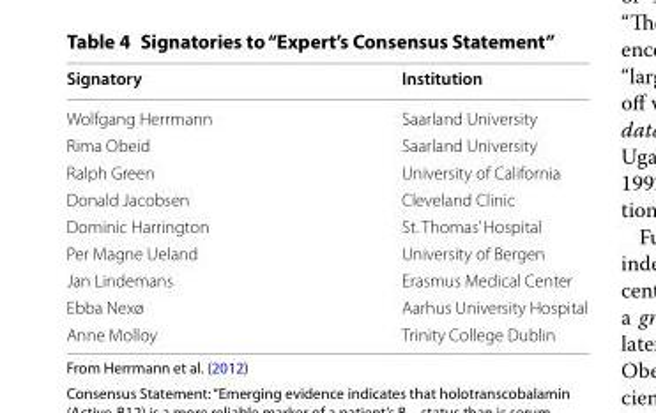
<table><thead><tr><td>Signatory</td><td>Institution</td></tr></thead><tbody><tr><td>Wolfgang Herrmann</td><td>Saarland University</td></tr><tr><td>Rima Obeid</td><td>Saarland University</td></tr><tr><td>Ralph Green</td><td>University of California</td></tr><tr><td>Donald Jacobsen</td><td>Cleveland Clinic</td></tr><tr><td>Dominic Harrington</td><td>St. Thomas’ Hospital</td></tr><tr><td>Per Magne Ueland</td><td>University of Bergen</td></tr><tr><td>Jan Lindemans</td><td>Erasmus Medical Center</td></tr><tr><td>Ebba Nexø</td><td>Aarhus University Hospital</td></tr><tr><td>Anne Molloy</td><td>Trinity College Dublin</td></tr></tbody></table>